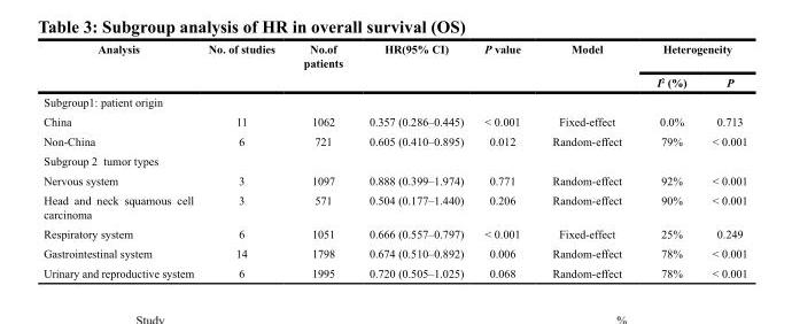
<table><thead><tr><td rowspan="2">Analysis</td><td rowspan="2">No. of studies</td><td rowspan="2">No.of patients</td><td rowspan="2">HR(95% CI)</td><td rowspan="2">P value</td><td rowspan="2">Model</td><td colspan="2">Heterogeneity</td></tr><tr><td>I<sup>2</sup> (%)</td><td>P</td></tr></thead><tbody><tr><td colspan="8">Subgroup1: patient origin</td></tr><tr><td>China</td><td>11</td><td>1062</td><td>0.357 (0.286–0.445)</td><td>&lt; 0.001</td><td>Fixed-effect</td><td>0.0%</td><td>0.713</td></tr><tr><td>Non-China</td><td>6</td><td>721</td><td>0.605 (0.410–0.895)</td><td>0.012</td><td>Random-effect</td><td>79%</td><td>&lt; 0.001</td></tr><tr><td colspan="8">Subgroup 2 tumor types</td></tr><tr><td>Nervous system</td><td>3</td><td>1097</td><td>0.888 (0.399–1.974)</td><td>0.771</td><td>Random-effect</td><td>92%</td><td>&lt; 0.001</td></tr><tr><td>Head and neck squamous cell carcinoma</td><td>3</td><td>571</td><td>0.504 (0.177–1.440)</td><td>0.206</td><td>Random-effect</td><td>90%</td><td>&lt; 0.001</td></tr><tr><td>Respiratory system</td><td>6</td><td>1051</td><td>0.666 (0.557–0.797)</td><td>&lt; 0.001</td><td>Fixed-effect</td><td>25%</td><td>0.249</td></tr><tr><td>Gastrointestinal system</td><td>14</td><td>1798</td><td>0.674 (0.510–0.892)</td><td>0.006</td><td>Random-effect</td><td>78%</td><td>&lt; 0.001</td></tr><tr><td>Urinary and reproductive system</td><td>6</td><td>1995</td><td>0.720 (0.505–1.025)</td><td>0.068</td><td>Random-effect</td><td>78%</td><td>&lt; 0.001</td></tr></tbody></table>